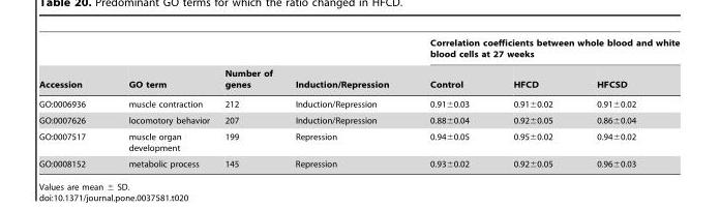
<table><thead><tr><td rowspan="2">Accession</td><td rowspan="2">GO term</td><td rowspan="2">Number of genes</td><td rowspan="2">Induction/Repression</td><td colspan="3">Correlation coefficients between whole blood and white blood cells at 27 weeks</td></tr><tr><td>Control</td><td>HFCD</td><td>HFCSD</td></tr></thead><tbody><tr><td>GO:0006936</td><td>muscle contraction</td><td>212</td><td>Induction/Repression</td><td>0.91±0.03</td><td>0.91±0.02</td><td>0.91±0.02</td></tr><tr><td>GO:0007626</td><td>locomotory behavior</td><td>207</td><td>Induction/Repression</td><td>0.88±0.04</td><td>0.92±0.05</td><td>0.86±0.04</td></tr><tr><td>GO:0007517</td><td>muscle organ development</td><td>199</td><td>Repression</td><td>0.94±0.05</td><td>0.95±0.02</td><td>0.94±0.02</td></tr><tr><td>GO:0008152</td><td>metabolic process</td><td>145</td><td>Repression</td><td>0.93±0.02</td><td>0.92±0.05</td><td>0.96±0.03</td></tr></tbody></table>